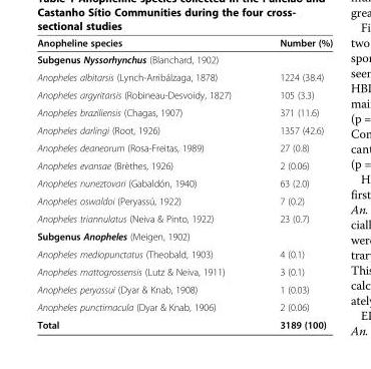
<table><thead><tr><td>Anopheline species</td><td>Number (%)</td></tr></thead><tbody><tr><td colspan="2">Subgenus Nyssorhynchus (Blanchard, 1902)</td></tr><tr><td>Anopheles albitarsis (Lynch-Arribálzaga, 1878)</td><td>1224 (38.4)</td></tr><tr><td>Anopheles argyritarsis (Robineau-Desvoidy, 1827)</td><td>105 (3.3)</td></tr><tr><td>Anopheles braziliensis (Chagas, 1907)</td><td>371 (11.6)</td></tr><tr><td>Anopheles darlingi (Root, 1926)</td><td>1357 (42.6)</td></tr><tr><td>Anopheles deaneorum (Rosa-Freitas, 1989)</td><td>27 (0.8)</td></tr><tr><td>Anopheles evansae (Brèthes, 1926)</td><td>2 (0.06)</td></tr><tr><td>Anopheles nuneztovari (Gabaldón, 1940)</td><td>63 (2.0)</td></tr><tr><td>Anopheles oswaldoi (Peryassú, 1922)</td><td>7 (0.2)</td></tr><tr><td>Anopheles triannulatus (Neiva &amp; Pinto, 1922)</td><td>23 (0.7)</td></tr><tr><td colspan="2">Subgenus Anopheles (Meigen, 1902)</td></tr><tr><td>Anopheles mediopunctatus (Theobald, 1903)</td><td>4 (0.1)</td></tr><tr><td>Anopheles mattogrossensis (Lutz &amp; Neiva, 1911)</td><td>3 (0.1)</td></tr><tr><td>Anopheles peryassui (Dyar &amp; Knab, 1908)</td><td>1 (0.03)</td></tr><tr><td>Anopheles punctimacula (Dyar &amp; Knab, 1906)</td><td>2 (0.06)</td></tr><tr><td>Total</td><td>3189 (100)</td></tr></tbody></table>